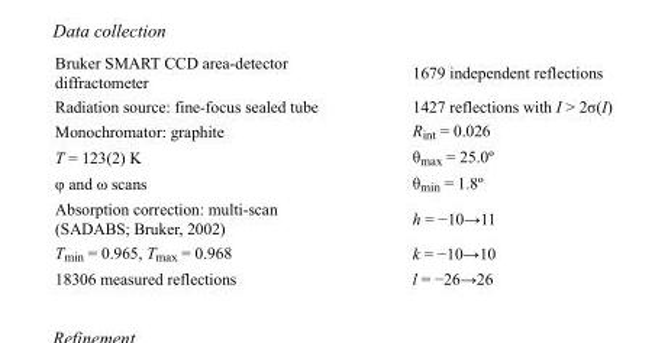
<table><tbody><tr><td>Bruker SMART CCD area-detector diffractometer</td><td>1679 independent reflections</td></tr><tr><td>Radiation source: fine-focus sealed tube</td><td>1427 reflections with I &gt; 2σ(I)</td></tr><tr><td>Monochromator: graphite</td><td>R<sub>int</sub> = 0.026</td></tr><tr><td>T = 123(2) K</td><td>θ<sub>max</sub> = 25.0º</td></tr><tr><td>φ and ω scans</td><td>θ<sub>min</sub> = 1.8º</td></tr><tr><td>Absorption correction: multi-scan (SADABS; Bruker, 2002)</td><td>h = −10→11</td></tr><tr><td>T<sub>min</sub> = 0.965, T<sub>max</sub> = 0.968</td><td>k = −10→10</td></tr><tr><td>18306 measured reflections</td><td>l = −26→26</td></tr></tbody></table>